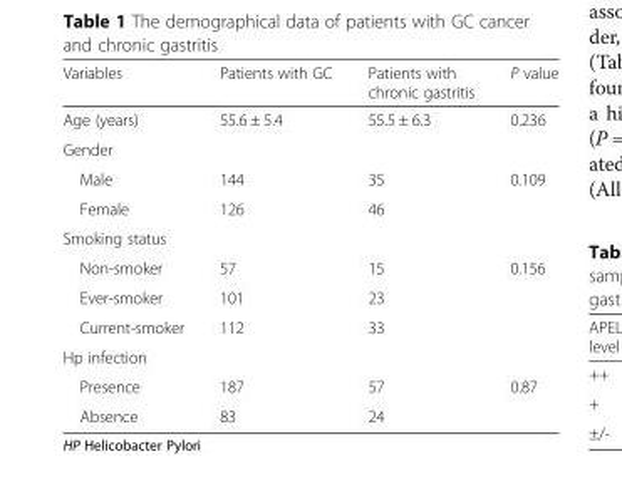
<table><thead><tr><td>Variables</td><td>Patients with GC</td><td>Patients with chronic gastritis</td><td>P value</td></tr></thead><tbody><tr><td>Age (years)</td><td>55.6 ± 5.4</td><td>55.5 ± 6.3</td><td>0.236</td></tr><tr><td colspan="4">Gender</td></tr><tr><td>Male</td><td>144</td><td>35</td><td>0.109</td></tr><tr><td>Female</td><td>126</td><td>46</td><td></td></tr><tr><td colspan="4">Smoking status</td></tr><tr><td>Non-smoker</td><td>57</td><td>15</td><td>0.156</td></tr><tr><td>Ever-smoker</td><td>101</td><td>23</td><td></td></tr><tr><td>Current-smoker</td><td>112</td><td>33</td><td></td></tr><tr><td colspan="4">Hp infection</td></tr><tr><td>Presence</td><td>187</td><td>57</td><td>0.87</td></tr><tr><td>Absence</td><td>83</td><td>24</td><td></td></tr></tbody></table>